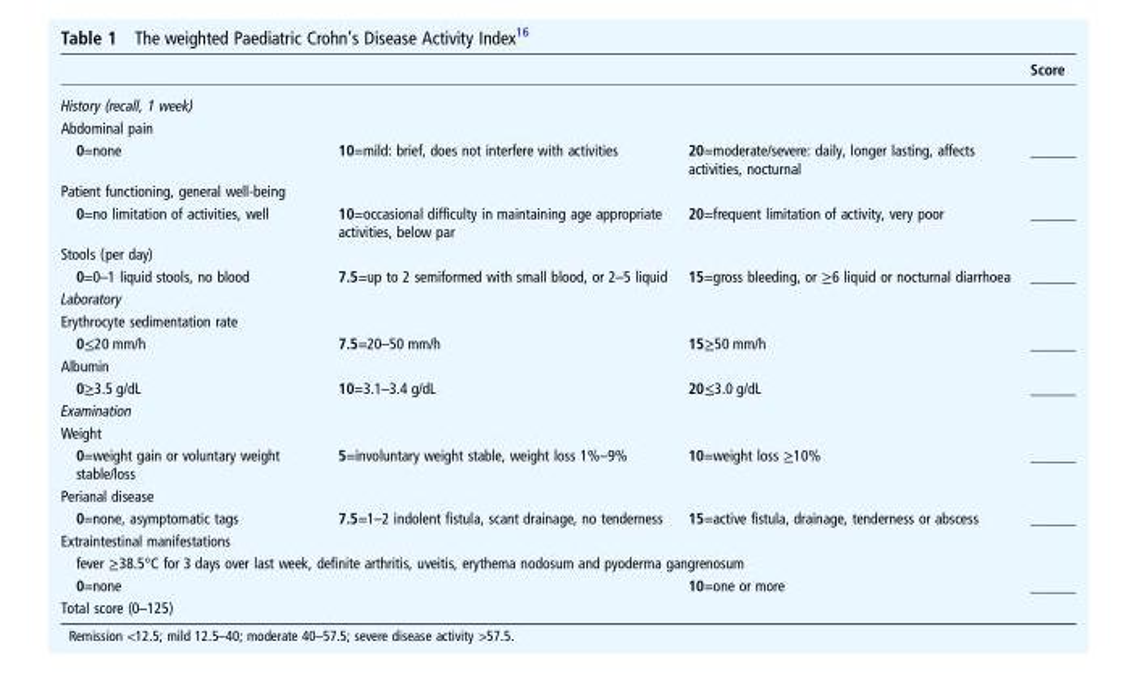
<table><thead><tr><td></td><td></td><td></td><td>Score</td></tr></thead><tbody><tr><td colspan="4">History (recall, 1 week)</td></tr><tr><td colspan="4">Abdominal pain</td></tr><tr><td>0=none</td><td>10=mild: brief, does not interfere with activities</td><td>20=moderate/severe: daily, longer lasting, affects activities, nocturnal</td><td>______</td></tr><tr><td colspan="4">Patient functioning, general well-being</td></tr><tr><td>0=no limitation of activities, well</td><td>10=occasional difficulty in maintaining age appropriate activities, below par</td><td>20=frequent limitation of activity, very poor</td><td>______</td></tr><tr><td colspan="4">Stools (per day)</td></tr><tr><td>0=0–1 liquid stools, no blood</td><td>7.5=up to 2 semiformed with small blood, or 2–5 liquid</td><td>15=gross bleeding, or ≥6 liquid or nocturnal diarrhoea</td><td>______</td></tr><tr><td colspan="4">Laboratory</td></tr><tr><td colspan="4">Erythrocyte sedimentation rate</td></tr><tr><td>0≤20 mm/h</td><td>7.5=20–50 mm/h</td><td>15≥50 mm/h</td><td>______</td></tr><tr><td colspan="4">Albumin</td></tr><tr><td>0≥3.5 g/dL</td><td>10=3.1–3.4 g/dL</td><td>20≤3.0 g/dL</td><td>______</td></tr><tr><td colspan="4">Examination</td></tr><tr><td colspan="4">Weight</td></tr><tr><td>0=weight gain or voluntary weight stable/loss</td><td>5=involuntary weight stable, weight loss 1%–9%</td><td>10=weight loss ≥10%</td><td>______</td></tr><tr><td colspan="4">Perianal disease</td></tr><tr><td>0=none, asymptomatic tags</td><td>7.5=1–2 indolent fistula, scant drainage, no tenderness</td><td>15=active fistula, drainage, tenderness or abscess</td><td>______</td></tr><tr><td colspan="4">Extraintestinal manifestations</td></tr><tr><td colspan="4">fever ≥38.5°C for 3 days over last week, definite arthritis, uveitis, erythema nodosum and pyoderma gangrenosum</td></tr><tr><td>0=none</td><td></td><td>10=one or more</td><td>______</td></tr><tr><td colspan="3">Total score (0–125)</td><td></td></tr></tbody></table>